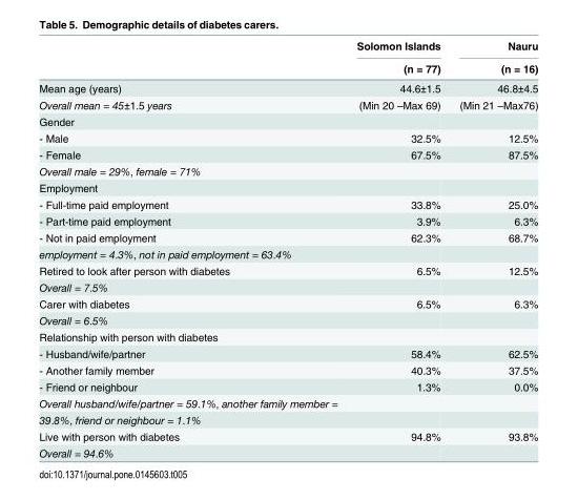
<table><thead><tr><td rowspan="2"></td><td rowspan="2">Solomon Islands (n = 77)</td><td rowspan="2">Nauru (n = 16)</td></tr><tr></tr></thead><tbody><tr><td>Mean age (years)</td><td>44.6±1.5</td><td>46.8±4.5</td></tr><tr><td>Overall mean = 45±1.5 years</td><td>(Min 20 –Max 69)</td><td>(Min 21 –Max76)</td></tr><tr><td colspan="3">Gender</td></tr><tr><td>- Male</td><td>32.5%</td><td>12.5%</td></tr><tr><td>- Female</td><td>67.5%</td><td>87.5%</td></tr><tr><td colspan="3">Overall male = 29%, female = 71%</td></tr><tr><td colspan="3">Employment</td></tr><tr><td>- Full-time paid employment</td><td>33.8%</td><td>25.0%</td></tr><tr><td>- Part-time paid employment</td><td>3.9%</td><td>6.3%</td></tr><tr><td>- Not in paid employment</td><td>62.3%</td><td>68.7%</td></tr><tr><td colspan="3">employment = 4.3%, not in paid employment = 63.4%</td></tr><tr><td>Retired to look after person with diabetes</td><td>6.5%</td><td>12.5%</td></tr><tr><td colspan="3">Overall = 7.5%</td></tr><tr><td>Carer with diabetes</td><td>6.5%</td><td>6.3%</td></tr><tr><td colspan="3">Overall = 6.5%</td></tr><tr><td colspan="3">Relationship with person with diabetes</td></tr><tr><td>- Husband/wife/partner</td><td>58.4%</td><td>62.5%</td></tr><tr><td>- Another family member</td><td>40.3%</td><td>37.5%</td></tr><tr><td>- Friend or neighbour</td><td>1.3%</td><td>0.0%</td></tr><tr><td colspan="3">Overall husband/wife/partner = 59.1%, another family member =</td></tr><tr><td colspan="3">39.8%, friend or neighbour = 1.1%</td></tr><tr><td>Live with person with diabetes</td><td>94.8%</td><td>93.8%</td></tr><tr><td>Overall = 94.6%</td><td></td><td></td></tr></tbody></table>